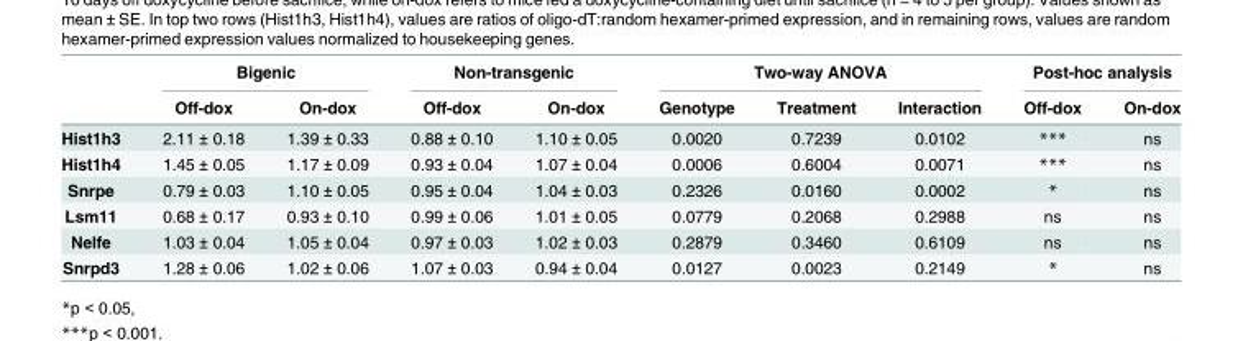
<table><thead><tr><td rowspan="2"></td><td colspan="2">Bigenic</td><td colspan="2">Non-transgenic</td><td colspan="3">Two-way ANOVA</td><td colspan="2">Post-hoc analysis</td></tr><tr><td>Off-dox</td><td>On-dox</td><td>Off-dox</td><td>On-dox</td><td>Genotype</td><td>Treatment</td><td>Interaction</td><td>Off-dox</td><td>On-dox</td></tr></thead><tbody><tr><td>Hist1h3</td><td>2.11 ± 0.18</td><td>1.39 ± 0.33</td><td>0.88 ± 0.10</td><td>1.10 ± 0.05</td><td>0.0020</td><td>0.7239</td><td>0.0102</td><td>***</td><td>ns</td></tr><tr><td>Hist1h4</td><td>1.45 ± 0.05</td><td>1.17 ± 0.09</td><td>0.93 ± 0.04</td><td>1.07 ± 0.04</td><td>0.0006</td><td>0.6004</td><td>0.0071</td><td>***</td><td>ns</td></tr><tr><td>Snrpe</td><td>0.79 ± 0.03</td><td>1.10 ± 0.05</td><td>0.95 ± 0.04</td><td>1.04 ± 0.03</td><td>0.2326</td><td>0.0160</td><td>0.0002</td><td>*</td><td>ns</td></tr><tr><td>Lsm11</td><td>0.68 ± 0.17</td><td>0.93 ± 0.10</td><td>0.99 ± 0.06</td><td>1.01 ± 0.05</td><td>0.0779</td><td>0.2068</td><td>0.2988</td><td>ns</td><td>ns</td></tr><tr><td>Nelfe</td><td>1.03 ± 0.04</td><td>1.05 ± 0.04</td><td>0.97 ± 0.03</td><td>1.02 ± 0.03</td><td>0.2879</td><td>0.3460</td><td>0.6109</td><td>ns</td><td>ns</td></tr><tr><td>Snrpd3</td><td>1.28 ± 0.06</td><td>1.02 ± 0.06</td><td>1.07 ± 0.03</td><td>0.94 ± 0.04</td><td>0.0127</td><td>0.0023</td><td>0.2149</td><td>*</td><td>ns</td></tr></tbody></table>